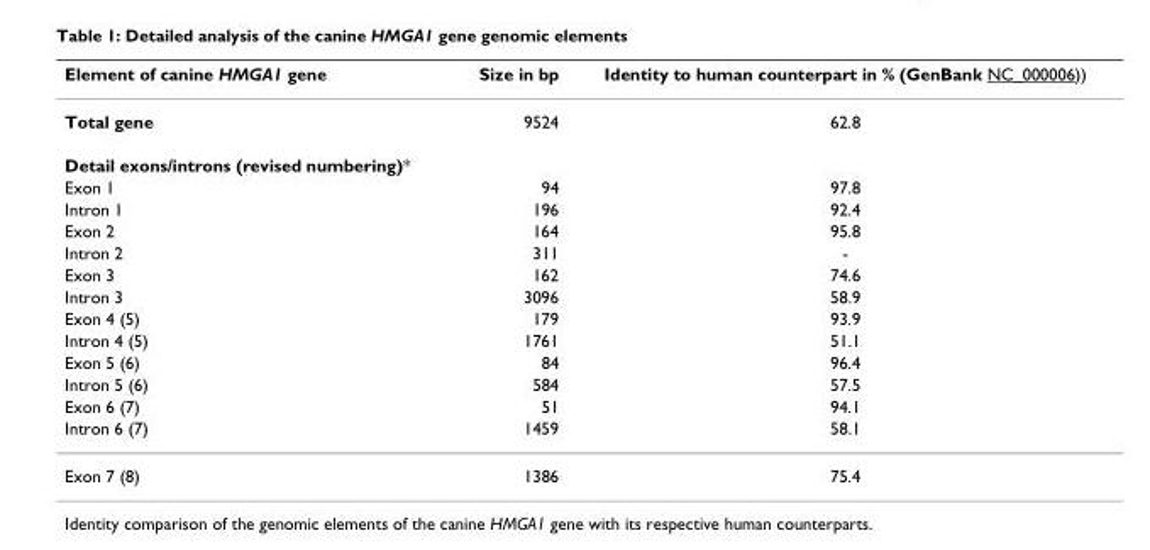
<table><thead><tr><td>Element of canine HMGA1 gene</td><td>Size in bp</td><td>Identity to human counterpart in % (GenBank NC_000006))</td></tr></thead><tbody><tr><td>Total gene</td><td>9524</td><td>62.8</td></tr><tr><td colspan="3">Detail exons/introns (revised numbering)*</td></tr><tr><td>Exon 1</td><td>94</td><td>97.8</td></tr><tr><td>Intron 1</td><td>196</td><td>92.4</td></tr><tr><td>Exon 2</td><td>164</td><td>95.8</td></tr><tr><td>Intron 2</td><td>311</td><td>-</td></tr><tr><td>Exon 3</td><td>162</td><td>74.6</td></tr><tr><td>Intron 3</td><td>3096</td><td>58.9</td></tr><tr><td>Exon 4 (5)</td><td>179</td><td>93.9</td></tr><tr><td>Intron 4 (5)</td><td>1761</td><td>51.1</td></tr><tr><td>Exon 5 (6)</td><td>84</td><td>96.4</td></tr><tr><td>Intron 5 (6)</td><td>584</td><td>57.5</td></tr><tr><td>Exon 6 (7)</td><td>51</td><td>94.1</td></tr><tr><td>Intron 6 (7)</td><td>1459</td><td>58.1</td></tr><tr><td>Exon 7 (8)</td><td>1386</td><td>75.4</td></tr></tbody></table>